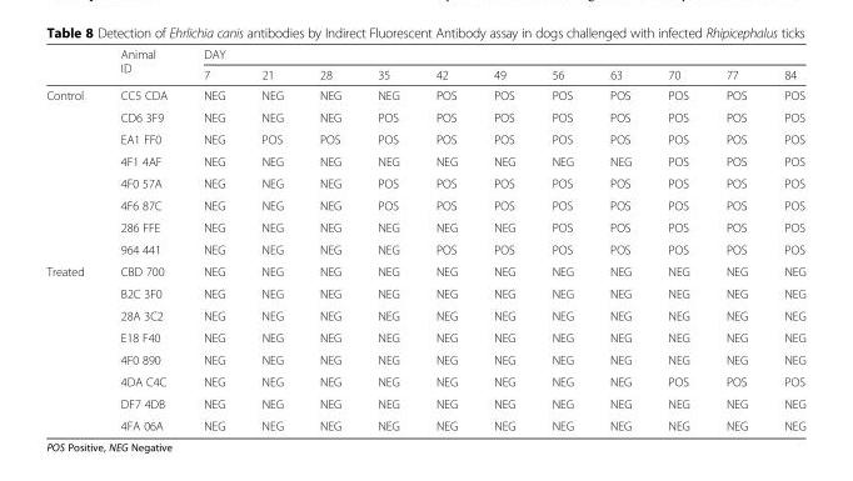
<table><thead><tr><td rowspan="2"></td><td rowspan="2">Animal ID</td><td colspan="11">DAY</td></tr><tr><td>7</td><td>21</td><td>28</td><td>35</td><td>42</td><td>49</td><td>56</td><td>63</td><td>70</td><td>77</td><td>84</td></tr></thead><tbody><tr><td rowspan="8">Control</td><td>CC5 CDA</td><td>NEG</td><td>NEG</td><td>NEG</td><td>NEG</td><td>POS</td><td>POS</td><td>POS</td><td>POS</td><td>POS</td><td>POS</td><td>POS</td></tr><tr><td>CD6 3F9</td><td>NEG</td><td>NEG</td><td>NEG</td><td>POS</td><td>POS</td><td>POS</td><td>POS</td><td>POS</td><td>POS</td><td>POS</td><td>POS</td></tr><tr><td>EA1 FF0</td><td>NEG</td><td>POS</td><td>POS</td><td>POS</td><td>POS</td><td>POS</td><td>POS</td><td>POS</td><td>POS</td><td>POS</td><td>POS</td></tr><tr><td>4F1 4AF</td><td>NEG</td><td>NEG</td><td>NEG</td><td>NEG</td><td>NEG</td><td>NEG</td><td>NEG</td><td>NEG</td><td>POS</td><td>POS</td><td>POS</td></tr><tr><td>4F0 57A</td><td>NEG</td><td>NEG</td><td>NEG</td><td>POS</td><td>POS</td><td>POS</td><td>POS</td><td>POS</td><td>POS</td><td>POS</td><td>POS</td></tr><tr><td>4F6 87C</td><td>NEG</td><td>NEG</td><td>NEG</td><td>POS</td><td>POS</td><td>POS</td><td>POS</td><td>POS</td><td>POS</td><td>POS</td><td>POS</td></tr><tr><td>286 FFE</td><td>NEG</td><td>NEG</td><td>NEG</td><td>NEG</td><td>NEG</td><td>NEG</td><td>POS</td><td>POS</td><td>POS</td><td>POS</td><td>POS</td></tr><tr><td>964 441</td><td>NEG</td><td>NEG</td><td>NEG</td><td>NEG</td><td>POS</td><td>POS</td><td>POS</td><td>POS</td><td>POS</td><td>POS</td><td>POS</td></tr><tr><td rowspan="8">Treated</td><td>CBD 700</td><td>NEG</td><td>NEG</td><td>NEG</td><td>NEG</td><td>NEG</td><td>NEG</td><td>NEG</td><td>NEG</td><td>NEG</td><td>NEG</td><td>NEG</td></tr><tr><td>B2C 3F0</td><td>NEG</td><td>NEG</td><td>NEG</td><td>NEG</td><td>NEG</td><td>NEG</td><td>NEG</td><td>NEG</td><td>NEG</td><td>NEG</td><td>NEG</td></tr><tr><td>28A 3C2</td><td>NEG</td><td>NEG</td><td>NEG</td><td>NEG</td><td>NEG</td><td>NEG</td><td>NEG</td><td>NEG</td><td>NEG</td><td>NEG</td><td>NEG</td></tr><tr><td>E18 F40</td><td>NEG</td><td>NEG</td><td>NEG</td><td>NEG</td><td>NEG</td><td>NEG</td><td>NEG</td><td>NEG</td><td>NEG</td><td>NEG</td><td>NEG</td></tr><tr><td>4F0 890</td><td>NEG</td><td>NEG</td><td>NEG</td><td>NEG</td><td>NEG</td><td>NEG</td><td>NEG</td><td>NEG</td><td>NEG</td><td>NEG</td><td>NEG</td></tr><tr><td>4DA C4C</td><td>NEG</td><td>NEG</td><td>NEG</td><td>NEG</td><td>NEG</td><td>NEG</td><td>NEG</td><td>NEG</td><td>POS</td><td>POS</td><td>POS</td></tr><tr><td>DF7 4DB</td><td>NEG</td><td>NEG</td><td>NEG</td><td>NEG</td><td>NEG</td><td>NEG</td><td>NEG</td><td>NEG</td><td>NEG</td><td>NEG</td><td>NEG</td></tr><tr><td>4FA 06A</td><td>NEG</td><td>NEG</td><td>NEG</td><td>NEG</td><td>NEG</td><td>NEG</td><td>NEG</td><td>NEG</td><td>NEG</td><td>NEG</td><td>NEG</td></tr></tbody></table>